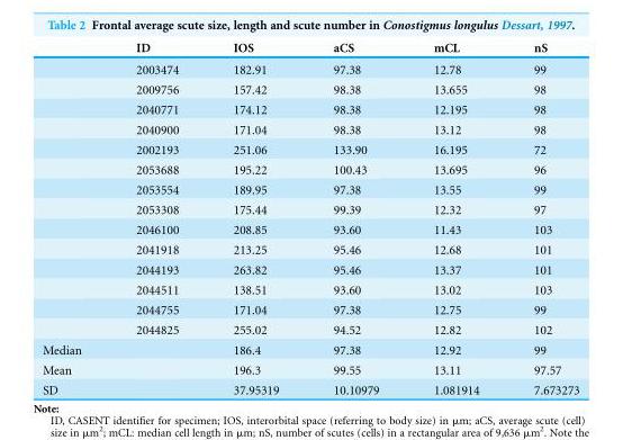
<table><thead><tr><td></td><td>ID</td><td>IOS</td><td>aCS</td><td>mCL</td><td>nS</td></tr></thead><tbody><tr><td></td><td>2003474</td><td>182.91</td><td>97.38</td><td>12.78</td><td>99</td></tr><tr><td></td><td>2009756</td><td>157.42</td><td>98.38</td><td>13.655</td><td>98</td></tr><tr><td></td><td>2040771</td><td>174.12</td><td>98.38</td><td>12.195</td><td>98</td></tr><tr><td></td><td>2040900</td><td>171.04</td><td>98.38</td><td>13.12</td><td>98</td></tr><tr><td></td><td>2002193</td><td>251.06</td><td>133.90</td><td>16.195</td><td>72</td></tr><tr><td></td><td>2053688</td><td>195.22</td><td>100.43</td><td>13.695</td><td>96</td></tr><tr><td></td><td>2053554</td><td>189.95</td><td>97.38</td><td>13.55</td><td>99</td></tr><tr><td></td><td>2053308</td><td>175.44</td><td>99.39</td><td>12.32</td><td>97</td></tr><tr><td></td><td>2046100</td><td>208.85</td><td>93.60</td><td>11.43</td><td>103</td></tr><tr><td></td><td>2041918</td><td>213.25</td><td>95.46</td><td>12.68</td><td>101</td></tr><tr><td></td><td>2044193</td><td>263.82</td><td>95.46</td><td>13.37</td><td>101</td></tr><tr><td></td><td>2044511</td><td>138.51</td><td>93.60</td><td>13.02</td><td>103</td></tr><tr><td></td><td>2044755</td><td>171.04</td><td>97.38</td><td>12.75</td><td>99</td></tr><tr><td></td><td>2044825</td><td>255.02</td><td>94.52</td><td>12.82</td><td>102</td></tr><tr><td>Median</td><td></td><td>186.4</td><td>97.38</td><td>12.92</td><td>99</td></tr><tr><td>Mean</td><td></td><td>196.3</td><td>99.55</td><td>13.11</td><td>97.57</td></tr><tr><td>SD</td><td></td><td>37.95319</td><td>10.10979</td><td>1.081914</td><td>7.673273</td></tr></tbody></table>